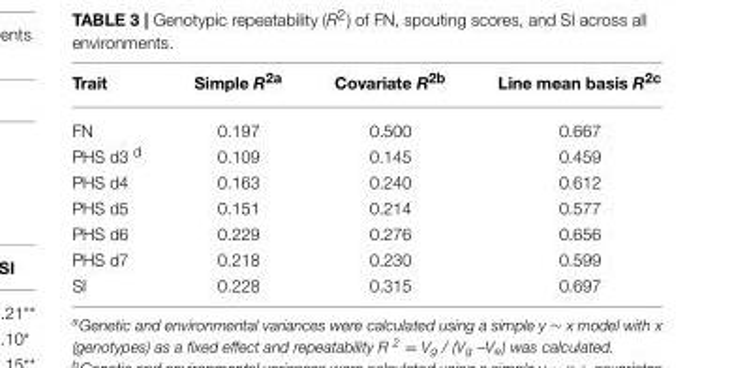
<table><thead><tr><td>Trait</td><td>Simple R<sup>2a</sup></td><td>Covariate R<sup>2b</sup></td><td>Line mean basis R<sup>2c</sup></td></tr></thead><tbody><tr><td>FN</td><td>0.197</td><td>0.500</td><td>0.667</td></tr><tr><td>PHS d3 <sup>d</sup></td><td>0.109</td><td>0.145</td><td>0.459</td></tr><tr><td>PHS d4</td><td>0.163</td><td>0.240</td><td>0.612</td></tr><tr><td>PHS d5</td><td>0.151</td><td>0.214</td><td>0.577</td></tr><tr><td>PHS d6</td><td>0.229</td><td>0.276</td><td>0.656</td></tr><tr><td>PHS d7</td><td>0.218</td><td>0.230</td><td>0.599</td></tr><tr><td>SI</td><td>0.228</td><td>0.315</td><td>0.697</td></tr></tbody></table>